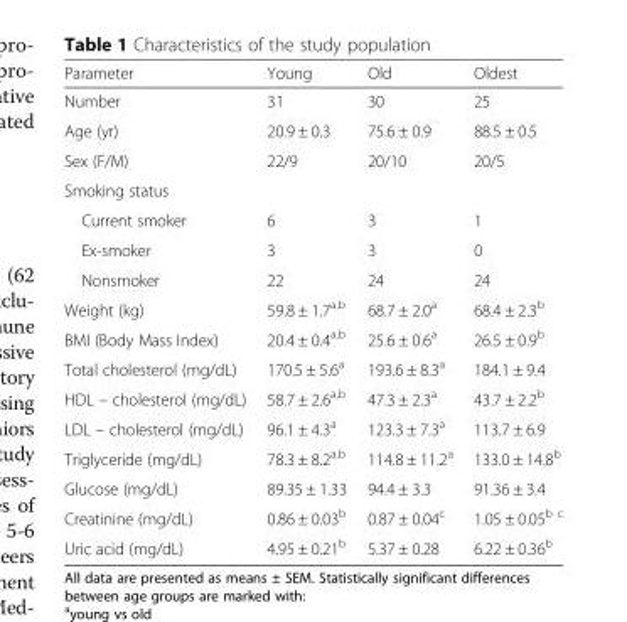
<table><thead><tr><td>Parameter</td><td>Young</td><td>Old</td><td>Oldest</td></tr></thead><tbody><tr><td>Number</td><td>31</td><td>30</td><td>25</td></tr><tr><td>Age (yr)</td><td>20.9 ± 0.3</td><td>75.6 ± 0.9</td><td>88.5 ± 0.5</td></tr><tr><td>Sex (F/M)</td><td>22/9</td><td>20/10</td><td>20/5</td></tr><tr><td colspan="4">Smoking status</td></tr><tr><td>Current smoker</td><td>6</td><td>3</td><td>1</td></tr><tr><td>Ex-smoker</td><td>3</td><td>3</td><td>0</td></tr><tr><td>Nonsmoker</td><td>22</td><td>24</td><td>24</td></tr><tr><td>Weight (kg)</td><td>59.8 ± 1.7<sup>a,b</sup></td><td>68.7 ± 2.0<sup>a</sup></td><td>68.4 ± 2.3<sup>b</sup></td></tr><tr><td>BMI (Body Mass Index)</td><td>20.4 ± 0.4<sup>a,b</sup></td><td>25.6 ± 0.6<sup>a</sup></td><td>26.5 ± 0.9<sup>b</sup></td></tr><tr><td>Total cholesterol (mg/dL)</td><td>170.5 ± 5.6<sup>a</sup></td><td>193.6 ± 8.3<sup>a</sup></td><td>184.1 ± 9.4</td></tr><tr><td>HDL – cholesterol (mg/dL)</td><td>58.7 ± 2.6<sup>a,b</sup></td><td>47.3 ± 2.3<sup>a</sup></td><td>43.7 ± 2.2<sup>b</sup></td></tr><tr><td>LDL – cholesterol (mg/dL)</td><td>96.1 ± 4.3<sup>a</sup></td><td>123.3 ± 7.3<sup>a</sup></td><td>113.7 ± 6.9</td></tr><tr><td>Triglyceride (mg/dL)</td><td>78.3 ± 8.2<sup>a,b</sup></td><td>114.8 ± 11.2<sup>a</sup></td><td>133.0 ± 14.8<sup>b</sup></td></tr><tr><td>Glucose (mg/dL)</td><td>89.35 ± 1.33</td><td>94.4 ± 3.3</td><td>91.36 ± 3.4</td></tr><tr><td>Creatinine (mg/dL)</td><td>0.86 ± 0.03<sup>b</sup></td><td>0.87 ± 0.04<sup>c</sup></td><td>1.05 ± 0.05<sup>b c</sup></td></tr><tr><td>Uric acid (mg/dL)</td><td>4.95 ± 0.21<sup>b</sup></td><td>5.37 ± 0.28</td><td>6.22 ± 0.36<sup>b</sup></td></tr></tbody></table>